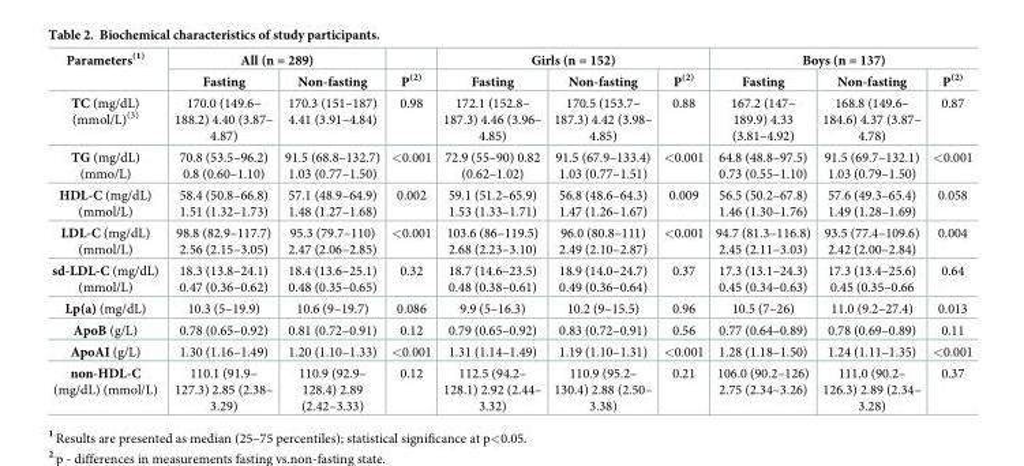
<table><thead><tr><td rowspan="2">Parameters<sup>(1)</sup></td><td colspan="2">All (n = 289)</td><td rowspan="2">P<sup>(2)</sup></td><td colspan="3">Girls (n = 152)</td><td colspan="3">Boys (n = 137)</td></tr><tr><td>Fasting</td><td>Non-fasting</td><td>Fasting</td><td>Non-fasting</td><td>P<sup>(2)</sup></td><td>Fasting</td><td>Non-fasting</td><td>P<sup>(2)</sup></td></tr></thead><tbody><tr><td>TC (mg/dL) (mmol/L)<sup>(3)</sup></td><td>170.0 (149.6– 188.2) 4.40 (3.87– 4.87)</td><td>170.3 (151–187) 4.41 (3.91–4.84)</td><td>0.98</td><td>172.1 (152.8– 187.3) 4.46 (3.96– 4.85)</td><td>170.5 (153.7– 187.3) 4.42 (3.98– 4.85)</td><td>0.88</td><td>167.2 (147– 189.9) 4.33 (3.81–4.92)</td><td>168.8 (149.6– 184.6) 4.37 (3.87– 4.78)</td><td>0.87</td></tr><tr><td>TG (mg/dL) (mmo/L)</td><td>70.8 (53.5–96.2) 0.8 (0.60–1.10)</td><td>91.5 (68.8–132.7) 1.03 (0.77–1.50)</td><td>&lt;0.001</td><td>72.9 (55–90) 0.82 (0.62–1.02)</td><td>91.5 (67.9–133.4) 1.03 (0.77–1.51)</td><td>&lt;0.001</td><td>64.8 (48.8–97.5) 0.73 (0.55–1.10)</td><td>91.5 (69.7–132.1) 1.03 (0.79–1.50)</td><td>&lt;0.001</td></tr><tr><td>HDL-C (mg/dL) (mmol/L)</td><td>58.4 (50.8–66.8) 1.51 (1.32–1.73)</td><td>57.1 (48.9–64.9) 1.48 (1.27–1.68)</td><td>0.002</td><td>59.1 (51.2–65.9) 1.53 (1.33–1.71)</td><td>56.8 (48.6–64.3) 1.47 (1.26–1.67)</td><td>0.009</td><td>56.5 (50.2–67.8) 1.46 (1.30–1.76)</td><td>57.6 (49.3–65.4) 1.49 (1.28–1.69)</td><td>0.058</td></tr><tr><td>LDL-C (mg/dL) (mmol/L)</td><td>98.8 (82.9–117.7) 2.56 (2.15–3.05)</td><td>95.3 (79.7–110) 2.47 (2.06–2.85)</td><td>&lt;0.001</td><td>103.6 (86–119.5) 2.68 (2.23–3.10)</td><td>96.0 (80.8–111) 2.49 (2.10–2.87)</td><td>&lt;0.001</td><td>94.7 (81.3–116.8) 2.45 (2.11–3.03)</td><td>93.5 (77.4–109.6) 2.42 (2.00–2.84)</td><td>0.004</td></tr><tr><td>sd-LDL-C (mg/dL) (mmol/L)</td><td>18.3 (13.8–24.1) 0.47 (0.36–0.62)</td><td>18.4 (13.6–25.1) 0.48 (0.35–0.65)</td><td>0.32</td><td>18.7 (14.6–23.5) 0.48 (0.38–0.61)</td><td>18.9 (14.0–24.7) 0.49 (0.36–0.64)</td><td>0.37</td><td>17.3 (13.1–24.3) 0.45 (0.34–0.63)</td><td>17.3 (13.4–25.6) 0.45 (0.35–0.66</td><td>0.64</td></tr><tr><td>Lp(a) (mg/dL)</td><td>10.3 (5–19.9)</td><td>10.6 (9–19.7)</td><td>0.086</td><td>9.9 (5–16.3)</td><td>10.2 (9–15.5)</td><td>0.96</td><td>10.5 (7–26)</td><td>11.0 (9.2–27.4)</td><td>0.013</td></tr><tr><td>ApoB (g/L)</td><td>0.78 (0.65–0.92)</td><td>0.81 (0.72–0.91)</td><td>0.12</td><td>0.79 (0.65–0.92)</td><td>0.83 (0.72–0.91)</td><td>0.56</td><td>0.77 (0.64–0.89)</td><td>0.78 (0.69–0.89)</td><td>0.11</td></tr><tr><td>ApoAI (g/L)</td><td>1.30 (1.16–1.49)</td><td>1.20 (1.10–1.33)</td><td>&lt;0.001</td><td>1.31 (1.14–1.49)</td><td>1.19 (1.10–1.31)</td><td>&lt;0.001</td><td>1.28 (1.18–1.50)</td><td>1.24 (1.11–1.35)</td><td>&lt;0.001</td></tr><tr><td>non-HDL-C (mg/dL) (mmol/L)</td><td>110.1 (91.9– 127.3) 2.85 (2.38– 3.29)</td><td>110.9 (92.9– 128.4) 2.89 (2.42–3.33)</td><td>0.12</td><td>112.5 (94.2– 128.1) 2.92 (2.44– 3.32)</td><td>110.9 (95.2– 130.4) 2.88 (2.50– 3.38)</td><td>0.21</td><td>106.0 (90.2–126) 2.75 (2.34–3.26)</td><td>111.0 (90.2– 126.3) 2.89 (2.34– 3.28)</td><td>0.37</td></tr></tbody></table>